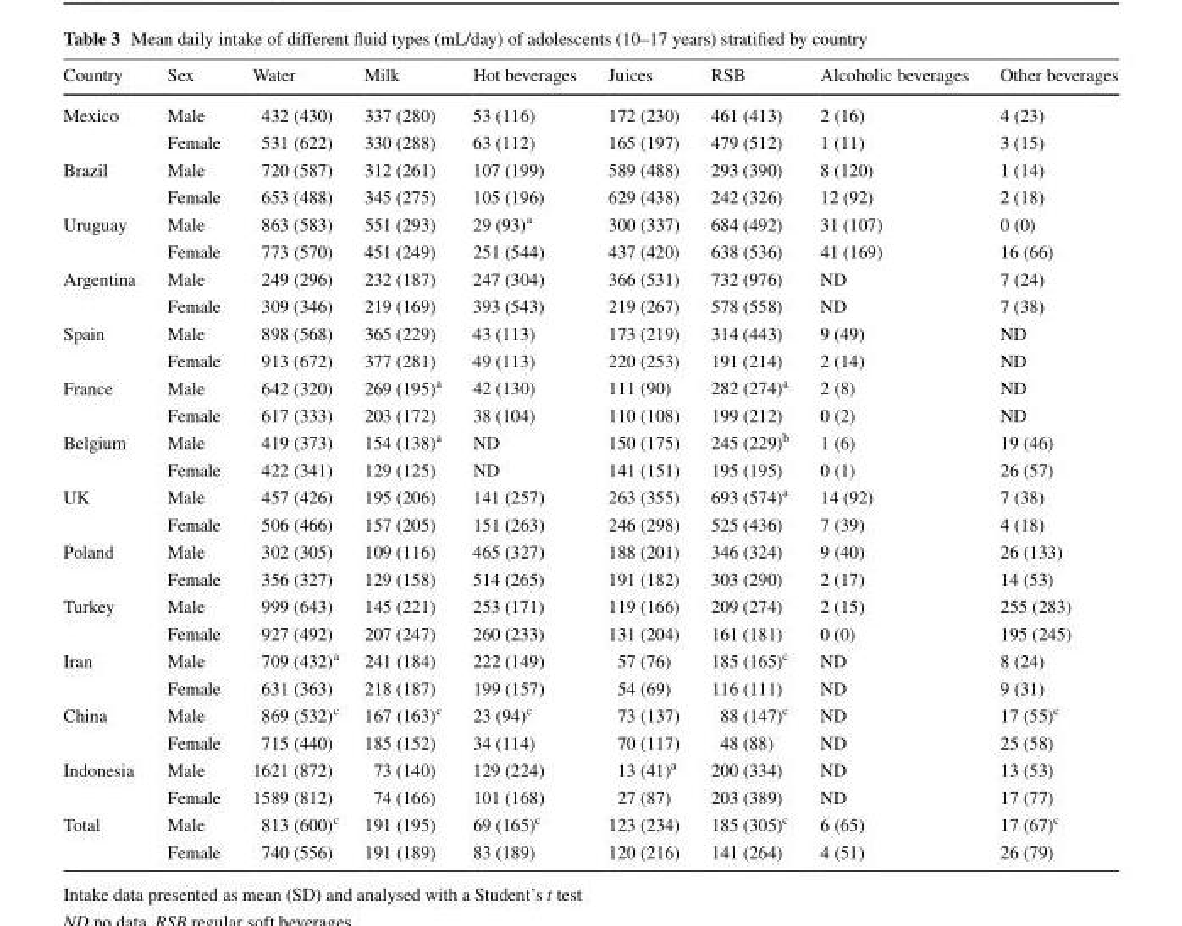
<table><thead><tr><td>Country</td><td>Sex</td><td>Water</td><td>Milk</td><td>Hot beverages</td><td>Juices</td><td>RSB</td><td>Alcoholic beverages</td><td>Other beverages</td></tr></thead><tbody><tr><td rowspan="2">Mexico</td><td>Male</td><td>432 (430)</td><td>337 (280)</td><td>53 (116)</td><td>172 (230)</td><td>461 (413)</td><td>2 (16)</td><td>4 (23)</td></tr><tr><td>Female</td><td>531 (622)</td><td>330 (288)</td><td>63 (112)</td><td>165 (197)</td><td>479 (512)</td><td>1 (11)</td><td>3 (15)</td></tr><tr><td rowspan="2">Brazil</td><td>Male</td><td>720 (587)</td><td>312 (261)</td><td>107 (199)</td><td>589 (488)</td><td>293 (390)</td><td>8 (120)</td><td>1 (14)</td></tr><tr><td>Female</td><td>653 (488)</td><td>345 (275)</td><td>105 (196)</td><td>629 (438)</td><td>242 (326)</td><td>12 (92)</td><td>2 (18)</td></tr><tr><td rowspan="2">Uruguay</td><td>Male</td><td>863 (583)</td><td>551 (293)</td><td>29 (93)<sup>a</sup></td><td>300 (337)</td><td>684 (492)</td><td>31 (107)</td><td>0 (0)</td></tr><tr><td>Female</td><td>773 (570)</td><td>451 (249)</td><td>251 (544)</td><td>437 (420)</td><td>638 (536)</td><td>41 (169)</td><td>16 (66)</td></tr><tr><td rowspan="2">Argentina</td><td>Male</td><td>249 (296)</td><td>232 (187)</td><td>247 (304)</td><td>366 (531)</td><td>732 (976)</td><td>ND</td><td>7 (24)</td></tr><tr><td>Female</td><td>309 (346)</td><td>219 (169)</td><td>393 (543)</td><td>219 (267)</td><td>578 (558)</td><td>ND</td><td>7 (38)</td></tr><tr><td rowspan="2">Spain</td><td>Male</td><td>898 (568)</td><td>365 (229)</td><td>43 (113)</td><td>173 (219)</td><td>314 (443)</td><td>9 (49)</td><td>ND</td></tr><tr><td>Female</td><td>913 (672)</td><td>377 (281)</td><td>49 (113)</td><td>220 (253)</td><td>191 (214)</td><td>2 (14)</td><td>ND</td></tr><tr><td rowspan="2">France</td><td>Male</td><td>642 (320)</td><td>269 (195)<sup>a</sup></td><td>42 (130)</td><td>111 (90)</td><td>282 (274)<sup>a</sup></td><td>2 (8)</td><td>ND</td></tr><tr><td>Female</td><td>617 (333)</td><td>203 (172)</td><td>38 (104)</td><td>110 (108)</td><td>199 (212)</td><td>0 (2)</td><td>ND</td></tr><tr><td rowspan="2">Belgium</td><td>Male</td><td>419 (373)</td><td>154 (138)<sup>a</sup></td><td>ND</td><td>150 (175)</td><td>245 (229)<sup>b</sup></td><td>1 (6)</td><td>19 (46)</td></tr><tr><td>Female</td><td>422 (341)</td><td>129 (125)</td><td>ND</td><td>141 (151)</td><td>195 (195)</td><td>0 (1)</td><td>26 (57)</td></tr><tr><td rowspan="2">UK</td><td>Male</td><td>457 (426)</td><td>195 (206)</td><td>141 (257)</td><td>263 (355)</td><td>693 (574)<sup>a</sup></td><td>14 (92)</td><td>7 (38)</td></tr><tr><td>Female</td><td>506 (466)</td><td>157 (205)</td><td>151 (263)</td><td>246 (298)</td><td>525 (436)</td><td>7 (39)</td><td>4 (18)</td></tr><tr><td rowspan="2">Poland</td><td>Male</td><td>302 (305)</td><td>109 (116)</td><td>465 (327)</td><td>188 (201)</td><td>346 (324)</td><td>9 (40)</td><td>26 (133)</td></tr><tr><td>Female</td><td>356 (327)</td><td>129 (158)</td><td>514 (265)</td><td>191 (182)</td><td>303 (290)</td><td>2 (17)</td><td>14 (53)</td></tr><tr><td rowspan="2">Turkey</td><td>Male</td><td>999 (643)</td><td>145 (221)</td><td>253 (171)</td><td>119 (166)</td><td>209 (274)</td><td>2 (15)</td><td>255 (283)</td></tr><tr><td>Female</td><td>927 (492)</td><td>207 (247)</td><td>260 (233)</td><td>131 (204)</td><td>161 (181)</td><td>0 (0)</td><td>195 (245)</td></tr><tr><td rowspan="2">Iran</td><td>Male</td><td>709 (432)<sup>a</sup></td><td>241 (184)</td><td>222 (149)</td><td>57 (76)</td><td>185 (165)<sup>c</sup></td><td>ND</td><td>8 (24)</td></tr><tr><td>Female</td><td>631 (363)</td><td>218 (187)</td><td>199 (157)</td><td>54 (69)</td><td>116 (111)</td><td>ND</td><td>9 (31)</td></tr><tr><td rowspan="2">China</td><td>Male</td><td>869 (532)<sup>c</sup></td><td>167 (163)<sup>c</sup></td><td>23 (94)<sup>c</sup></td><td>73 (137)</td><td>88 (147)<sup>c</sup></td><td>ND</td><td>17 (55)<sup>c</sup></td></tr><tr><td>Female</td><td>715 (440)</td><td>185 (152)</td><td>34 (114)</td><td>70 (117)</td><td>48 (88)</td><td>ND</td><td>25 (58)</td></tr><tr><td rowspan="2">Indonesia</td><td>Male</td><td>1621 (872)</td><td>73 (140)</td><td>129 (224)</td><td>13 (41)<sup>a</sup></td><td>200 (334)</td><td>ND</td><td>13 (53)</td></tr><tr><td>Female</td><td>1589 (812)</td><td>74 (166)</td><td>101 (168)</td><td>27 (87)</td><td>203 (389)</td><td>ND</td><td>17 (77)</td></tr><tr><td rowspan="2">Total</td><td>Male</td><td>813 (600)<sup>c</sup></td><td>191 (195)</td><td>69 (165)<sup>c</sup></td><td>123 (234)</td><td>185 (305)<sup>c</sup></td><td>6 (65)</td><td>17 (67)<sup>c</sup></td></tr><tr><td>Female</td><td>740 (556)</td><td>191 (189)</td><td>83 (189)</td><td>120 (216)</td><td>141 (264)</td><td>4 (51)</td><td>26 (79)</td></tr></tbody></table>